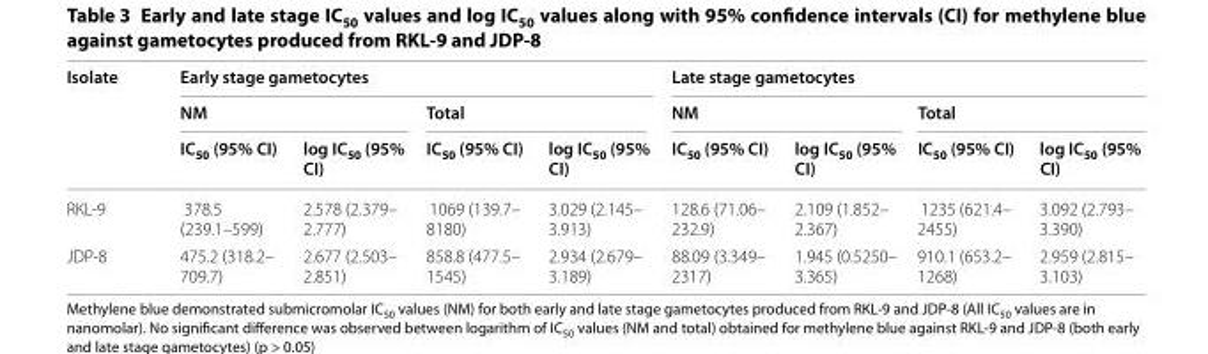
<table><thead><tr><td rowspan="3">Isolate</td><td colspan="4">Early stage gametocytes</td><td colspan="4">Late stage gametocytes</td></tr><tr><td colspan="2">NM</td><td colspan="2">Total</td><td colspan="2">NM</td><td colspan="2">Total</td></tr><tr><td>IC<sub>50</sub> (95% CI)</td><td>log IC<sub>50</sub> (95% CI)</td><td>IC<sub>50</sub> (95% CI)</td><td>log IC<sub>50</sub> (95% CI)</td><td>IC<sub>50</sub> (95% CI)</td><td>log IC<sub>50</sub> (95% CI)</td><td>IC<sub>50</sub> (95% CI)</td><td>log IC<sub>50</sub> (95% CI)</td></tr></thead><tbody><tr><td>RKL-9</td><td>378.5 (239.1–599)</td><td>2.578 (2.379– 2.777)</td><td>1069 (139.7– 8180)</td><td>3.029 (2.145– 3.913)</td><td>128.6 (71.06– 232.9)</td><td>2.109 (1.852– 2.367)</td><td>1235 (621.4– 2455)</td><td>3.092 (2.793– 3.390)</td></tr><tr><td>JDP-8</td><td>475.2 (318.2– 709.7)</td><td>2.677 (2.503– 2.851)</td><td>858.8 (477.5– 1545)</td><td>2.934 (2.679– 3.189)</td><td>88.09 (3.349– 2317)</td><td>1.945 (0.5250– 3.365)</td><td>910.1 (653.2– 1268)</td><td>2.959 (2.815– 3.103)</td></tr></tbody></table>